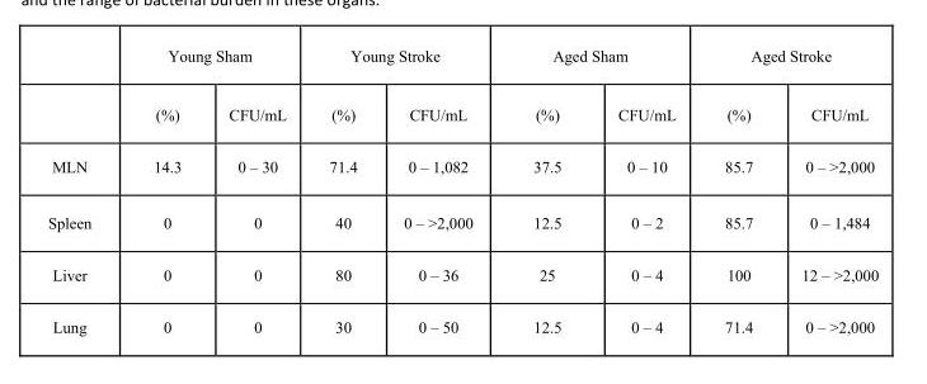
<table><thead><tr><td rowspan="2"></td><td colspan="2">Young Sham</td><td colspan="2">Young Stroke</td><td colspan="2">Aged Sham</td><td colspan="2">Aged Stroke</td></tr><tr><td>(%)</td><td>CFU/mL</td><td>(%)</td><td>CFU/mL</td><td>(%)</td><td>CFU/mL</td><td>(%)</td><td>CFU/mL</td></tr></thead><tbody><tr><td>MLN</td><td>14.3</td><td>0 – 30</td><td>71.4</td><td>0 – 1,082</td><td>37.5</td><td>0 – 10</td><td>85.7</td><td>0 – &gt;2,000</td></tr><tr><td>Spleen</td><td>0</td><td>0</td><td>40</td><td>0 – &gt;2,000</td><td>12.5</td><td>0 – 2</td><td>85.7</td><td>0 – 1,484</td></tr><tr><td>Liver</td><td>0</td><td>0</td><td>80</td><td>0 – 36</td><td>25</td><td>0 – 4</td><td>100</td><td>12 – &gt;2,000</td></tr><tr><td>Lung</td><td>0</td><td>0</td><td>30</td><td>0 – 50</td><td>12.5</td><td>0 – 4</td><td>71.4</td><td>0 – &gt;2,000</td></tr></tbody></table>